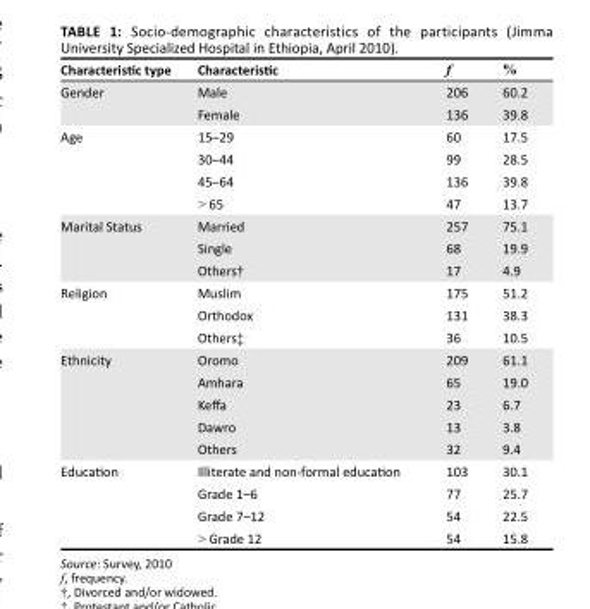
<table><thead><tr><td>Characteristic type</td><td>Characteristic</td><td>f</td><td>%</td></tr></thead><tbody><tr><td rowspan="2">Gender</td><td>Male</td><td>206</td><td>60.2</td></tr><tr><td>Female</td><td>136</td><td>39.8</td></tr><tr><td rowspan="4">Age</td><td>15–29</td><td>60</td><td>17.5</td></tr><tr><td>30–44</td><td>99</td><td>28.5</td></tr><tr><td>45–64</td><td>136</td><td>39.8</td></tr><tr><td>&gt; 65</td><td>47</td><td>13.7</td></tr><tr><td rowspan="3">Marital Status</td><td>Married</td><td>257</td><td>75.1</td></tr><tr><td>Single</td><td>68</td><td>19.9</td></tr><tr><td>Others†</td><td>17</td><td>4.9</td></tr><tr><td rowspan="3">Religion</td><td>Muslim</td><td>175</td><td>51.2</td></tr><tr><td>Orthodox</td><td>131</td><td>38.3</td></tr><tr><td>Others‡</td><td>36</td><td>10.5</td></tr><tr><td rowspan="5">Ethnicity</td><td>Oromo</td><td>209</td><td>61.1</td></tr><tr><td>Amhara</td><td>65</td><td>19.0</td></tr><tr><td>Keffa</td><td>23</td><td>6.7</td></tr><tr><td>Dawro</td><td>13</td><td>3.8</td></tr><tr><td>Others</td><td>32</td><td>9.4</td></tr><tr><td rowspan="4">Education</td><td>Illiterate and non-formal education</td><td>103</td><td>30.1</td></tr><tr><td>Grade 1–6</td><td>77</td><td>25.7</td></tr><tr><td>Grade 7–12</td><td>54</td><td>22.5</td></tr><tr><td>&gt; Grade 12</td><td>54</td><td>15.8</td></tr></tbody></table>